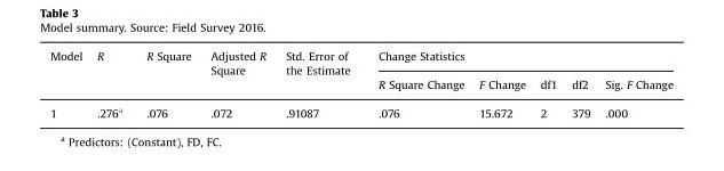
<table><thead><tr><td rowspan="2">Model</td><td rowspan="2">R</td><td rowspan="2">R Square</td><td rowspan="2">Adjusted R Square</td><td rowspan="2">Std. Error of the Estimate</td><td colspan="5">Change Statistics</td></tr><tr><td>R Square Change</td><td>F Change</td><td>df1</td><td>df2</td><td>Sig. F Change</td></tr></thead><tbody><tr><td>1</td><td>.276<sup>a</sup></td><td>.076</td><td>.072</td><td>.91087</td><td>.076</td><td>15.672</td><td>2</td><td>379</td><td>.000</td></tr></tbody></table>